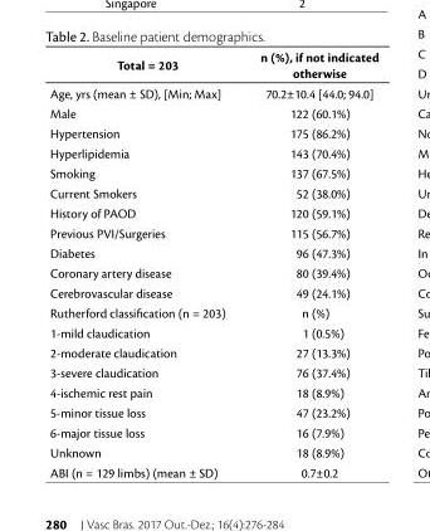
<table><thead><tr><td>Total = 203</td><td>n (%), if not indicated otherwise</td></tr></thead><tbody><tr><td>Age, yrs (mean ± SD), [Min; Max]</td><td>70.2±10.4 [44.0; 94.0]</td></tr><tr><td>Male</td><td>122 (60.1%)</td></tr><tr><td>Hypertension</td><td>175 (86.2%)</td></tr><tr><td>Hyperlipidemia</td><td>143 (70.4%)</td></tr><tr><td>Smoking</td><td>137 (67.5%)</td></tr><tr><td>Current Smokers</td><td>52 (38.0%)</td></tr><tr><td>History of PAOD</td><td>120 (59.1%)</td></tr><tr><td>Previous PVI/Surgeries</td><td>115 (56.7%)</td></tr><tr><td>Diabetes</td><td>96 (47.3%)</td></tr><tr><td>Coronary artery disease</td><td>80 (39.4%)</td></tr><tr><td>Cerebrovascular disease</td><td>49 (24.1%)</td></tr><tr><td>Rutherford classification (n = 203)</td><td>n (%)</td></tr><tr><td>1-mild claudication</td><td>1 (0.5%)</td></tr><tr><td>2-moderate claudication</td><td>27 (13.3%)</td></tr><tr><td>3-severe claudication</td><td>76 (37.4%)</td></tr><tr><td>4-ischemic rest pain</td><td>18 (8.9%)</td></tr><tr><td>5-minor tissue loss</td><td>47 (23.2%)</td></tr><tr><td>6-major tissue loss</td><td>16 (7.9%)</td></tr><tr><td>Unknown</td><td>18 (8.9%)</td></tr><tr><td>ABI (n = 129 limbs) (mean ± SD)</td><td>0.7±0.2</td></tr></tbody></table>